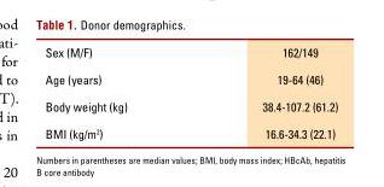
<table><tbody><tr><td>Sex (M/F)</td><td>162/149</td></tr><tr><td>Age (years)</td><td>19-64 (46)</td></tr><tr><td>Body weight (kg)</td><td>38.4-107.2 (61.2)</td></tr><tr><td>BMI (kg/m<sup>2</sup>)</td><td>16.6-34.3 (22.1)</td></tr></tbody></table>